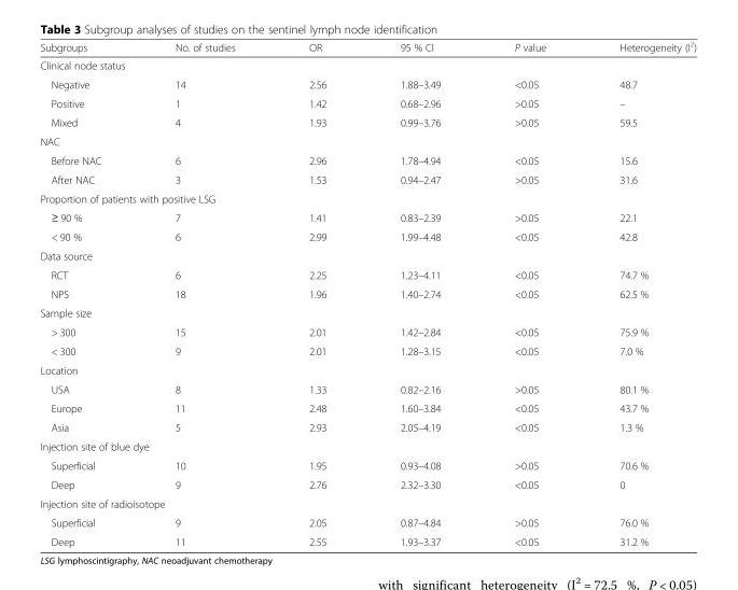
<table><thead><tr><td>Subgroups</td><td>No. of studies</td><td>OR</td><td>95 % CI</td><td>P value</td><td>Heterogeneity (I<sup>2</sup>)</td></tr></thead><tbody><tr><td colspan="6">Clinical node status</td></tr><tr><td>Negative</td><td>14</td><td>2.56</td><td>1.88–3.49</td><td>&lt;0.05</td><td>48.7</td></tr><tr><td>Positive</td><td>1</td><td>1.42</td><td>0.68–2.96</td><td>&gt;0.05</td><td>–</td></tr><tr><td>Mixed</td><td>4</td><td>1.93</td><td>0.99–3.76</td><td>&gt;0.05</td><td>59.5</td></tr><tr><td colspan="6">NAC</td></tr><tr><td>Before NAC</td><td>6</td><td>2.96</td><td>1.78–4.94</td><td>&lt;0.05</td><td>15.6</td></tr><tr><td>After NAC</td><td>3</td><td>1.53</td><td>0.94–2.47</td><td>&gt;0.05</td><td>31.6</td></tr><tr><td colspan="6">Proportion of patients with positive LSG</td></tr><tr><td>≥ 90 %</td><td>7</td><td>1.41</td><td>0.83–2.39</td><td>&gt;0.05</td><td>22.1</td></tr><tr><td>&lt; 90 %</td><td>6</td><td>2.99</td><td>1.99–4.48</td><td>&lt;0.05</td><td>42.8</td></tr><tr><td colspan="6">Data source</td></tr><tr><td>RCT</td><td>6</td><td>2.25</td><td>1.23–4.11</td><td>&lt;0.05</td><td>74.7 %</td></tr><tr><td>NPS</td><td>18</td><td>1.96</td><td>1.40–2.74</td><td>&lt;0.05</td><td>62.5 %</td></tr><tr><td colspan="6">Sample size</td></tr><tr><td>&gt; 300</td><td>15</td><td>2.01</td><td>1.42–2.84</td><td>&lt;0.05</td><td>75.9 %</td></tr><tr><td>&lt; 300</td><td>9</td><td>2.01</td><td>1.28–3.15</td><td>&lt;0.05</td><td>7.0 %</td></tr><tr><td colspan="6">Location</td></tr><tr><td>USA</td><td>8</td><td>1.33</td><td>0.82–2.16</td><td>&gt;0.05</td><td>80.1 %</td></tr><tr><td>Europe</td><td>11</td><td>2.48</td><td>1.60–3.84</td><td>&lt;0.05</td><td>43.7 %</td></tr><tr><td>Asia</td><td>5</td><td>2.93</td><td>2.05–4.19</td><td>&lt;0.05</td><td>1.3 %</td></tr><tr><td colspan="6">Injection site of blue dye</td></tr><tr><td>Superficial</td><td>10</td><td>1.95</td><td>0.93–4.08</td><td>&gt;0.05</td><td>70.6 %</td></tr><tr><td>Deep</td><td>9</td><td>2.76</td><td>2.32–3.30</td><td>&lt;0.05</td><td>0</td></tr><tr><td colspan="6">Injection site of radioisotope</td></tr><tr><td>Superficial</td><td>9</td><td>2.05</td><td>0.87–4.84</td><td>&gt;0.05</td><td>76.0 %</td></tr><tr><td>Deep</td><td>11</td><td>2.55</td><td>1.93–3.37</td><td>&lt;0.05</td><td>31.2 %</td></tr></tbody></table>